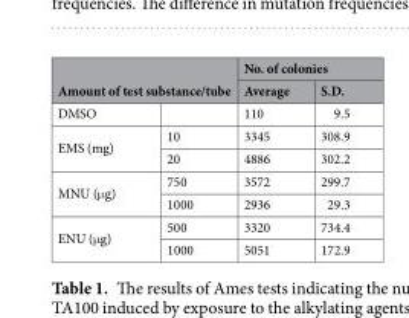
<table><thead><tr><td rowspan="2" colspan="2">Amount of test substance/tube</td><td colspan="2">No. of colonies</td></tr><tr><td rowspan="2">Average 110</td><td rowspan="2">S.D. 9.5</td></tr><tr><td>DMSO</td><td></td></tr></thead><tbody><tr><td rowspan="2">EMS (mg)</td><td>10</td><td>3345</td><td>308.9</td></tr><tr><td>20</td><td>4886</td><td>302.2</td></tr><tr><td rowspan="2">MNU (μg)</td><td>750</td><td>3572</td><td>299.7</td></tr><tr><td>1000</td><td>2936</td><td>29.3</td></tr><tr><td rowspan="2">ENU (μg)</td><td>500</td><td>3320</td><td>734.4</td></tr><tr><td>1000</td><td>5051</td><td>172.9</td></tr></tbody></table>